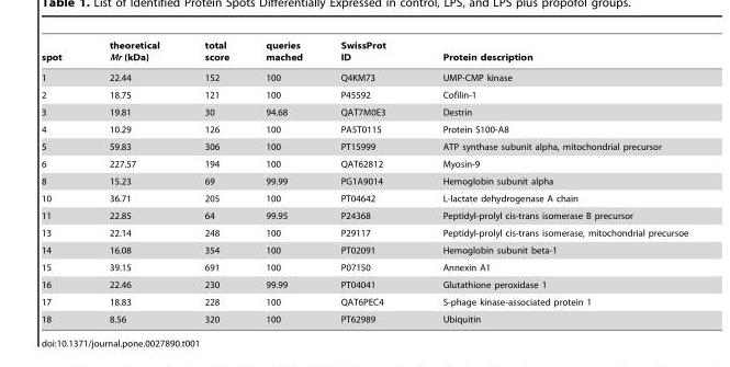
<table><thead><tr><td>spot</td><td>theoretical Mr (kDa)</td><td>total score</td><td>queries mached</td><td>SwissProt ID</td><td>Protein description</td></tr></thead><tbody><tr><td>1</td><td>22.44</td><td>152</td><td>100</td><td>Q4KM73</td><td>UMP-CMP kinase</td></tr><tr><td>2</td><td>18.75</td><td>121</td><td>100</td><td>P45592</td><td>Cofilin-1</td></tr><tr><td>3</td><td>19.81</td><td>30</td><td>94.68</td><td>QAT7M0E3</td><td>Destrin</td></tr><tr><td>4</td><td>10.29</td><td>126</td><td>100</td><td>PA5T0115</td><td>Protein S100-A8</td></tr><tr><td>5</td><td>59.83</td><td>306</td><td>100</td><td>PT15999</td><td>ATP synthase subunit alpha, mitochondrial precursor</td></tr><tr><td>6</td><td>227.57</td><td>194</td><td>100</td><td>QAT62812</td><td>Myosin-9</td></tr><tr><td>8</td><td>15.23</td><td>69</td><td>99.99</td><td>PG1A9014</td><td>Hemoglobin subunit alpha</td></tr><tr><td>10</td><td>36.71</td><td>205</td><td>100</td><td>PT04642</td><td>L-lactate dehydrogenase A chain</td></tr><tr><td>11</td><td>22.85</td><td>64</td><td>99.95</td><td>P24368</td><td>Peptidyl-prolyl cis-trans isomerase B precursor</td></tr><tr><td>13</td><td>22.14</td><td>248</td><td>100</td><td>P29117</td><td>Peptidyl-prolyl cis-trans isomerase, mitochondrial precursoe</td></tr><tr><td>14</td><td>16.08</td><td>354</td><td>100</td><td>PT02091</td><td>Hemoglobin subunit beta-1</td></tr><tr><td>15</td><td>39.15</td><td>691</td><td>100</td><td>P07150</td><td>Annexin A1</td></tr><tr><td>16</td><td>22.46</td><td>230</td><td>99.99</td><td>PT04041</td><td>Glutathione peroxidase 1</td></tr><tr><td>17</td><td>18.83</td><td>228</td><td>100</td><td>QAT6PEC4</td><td>S-phage kinase-associated protein 1</td></tr><tr><td>18</td><td>8.56</td><td>320</td><td>100</td><td>PT62989</td><td>Ubiquitin</td></tr></tbody></table>